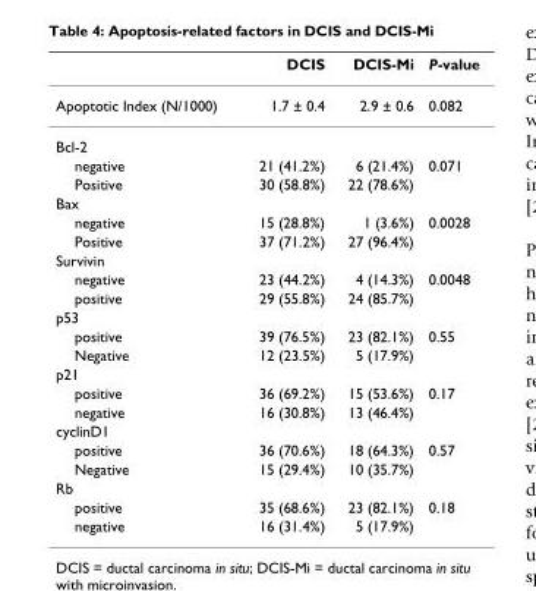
<table><thead><tr><td></td><td>DCIS</td><td>DCIS-Mi</td><td>P-value</td></tr></thead><tbody><tr><td>Apoptotic Index (N/1000)</td><td>1.7 ± 0.4</td><td>2.9 ± 0.6</td><td>0.082</td></tr><tr><td colspan="4">Bcl-2</td></tr><tr><td>negative</td><td>21 (41.2%)</td><td>6 (21.4%)</td><td>0.071</td></tr><tr><td>Positive</td><td>30 (58.8%)</td><td>22 (78.6%)</td><td></td></tr><tr><td colspan="4">Bax</td></tr><tr><td>negative</td><td>15 (28.8%)</td><td>1 (3.6%)</td><td>0.0028</td></tr><tr><td>Positive</td><td>37 (71.2%)</td><td>27 (96.4%)</td><td></td></tr><tr><td colspan="4">Survivin</td></tr><tr><td>negative</td><td>23 (44.2%)</td><td>4 (14.3%)</td><td>0.0048</td></tr><tr><td>positive</td><td>29 (55.8%)</td><td>24 (85.7%)</td><td></td></tr><tr><td colspan="4">p53</td></tr><tr><td>positive</td><td>39 (76.5%)</td><td>23 (82.1%)</td><td>0.55</td></tr><tr><td>Negative</td><td>12 (23.5%)</td><td>5 (17.9%)</td><td></td></tr><tr><td colspan="4">p21</td></tr><tr><td>positive</td><td>36 (69.2%)</td><td>15 (53.6%)</td><td>0.17</td></tr><tr><td>negative</td><td>16 (30.8%)</td><td>13 (46.4%)</td><td></td></tr><tr><td colspan="4">cyclinD1</td></tr><tr><td>positive</td><td>36 (70.6%)</td><td>18 (64.3%)</td><td>0.57</td></tr><tr><td>Negative</td><td>15 (29.4%)</td><td>10 (35.7%)</td><td></td></tr><tr><td colspan="4">Rb</td></tr><tr><td>positive</td><td>35 (68.6%)</td><td>23 (82.1%)</td><td>0.18</td></tr><tr><td>negative</td><td>16 (31.4%)</td><td>5 (17.9%)</td><td></td></tr></tbody></table>